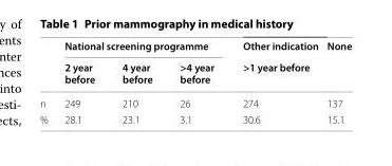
<table><thead><tr><td rowspan="2"></td><td colspan="3">National screening programme</td><td rowspan="2">Other indication &gt;1 year before</td><td rowspan="2">None</td></tr><tr><td>2 year before</td><td>4 year before</td><td>&gt;4 year before</td></tr></thead><tbody><tr><td>n</td><td>249</td><td>210</td><td>26</td><td>274</td><td>137</td></tr><tr><td>%</td><td>28.1</td><td>23.1</td><td>3.1</td><td>30.6</td><td>15.1</td></tr></tbody></table>